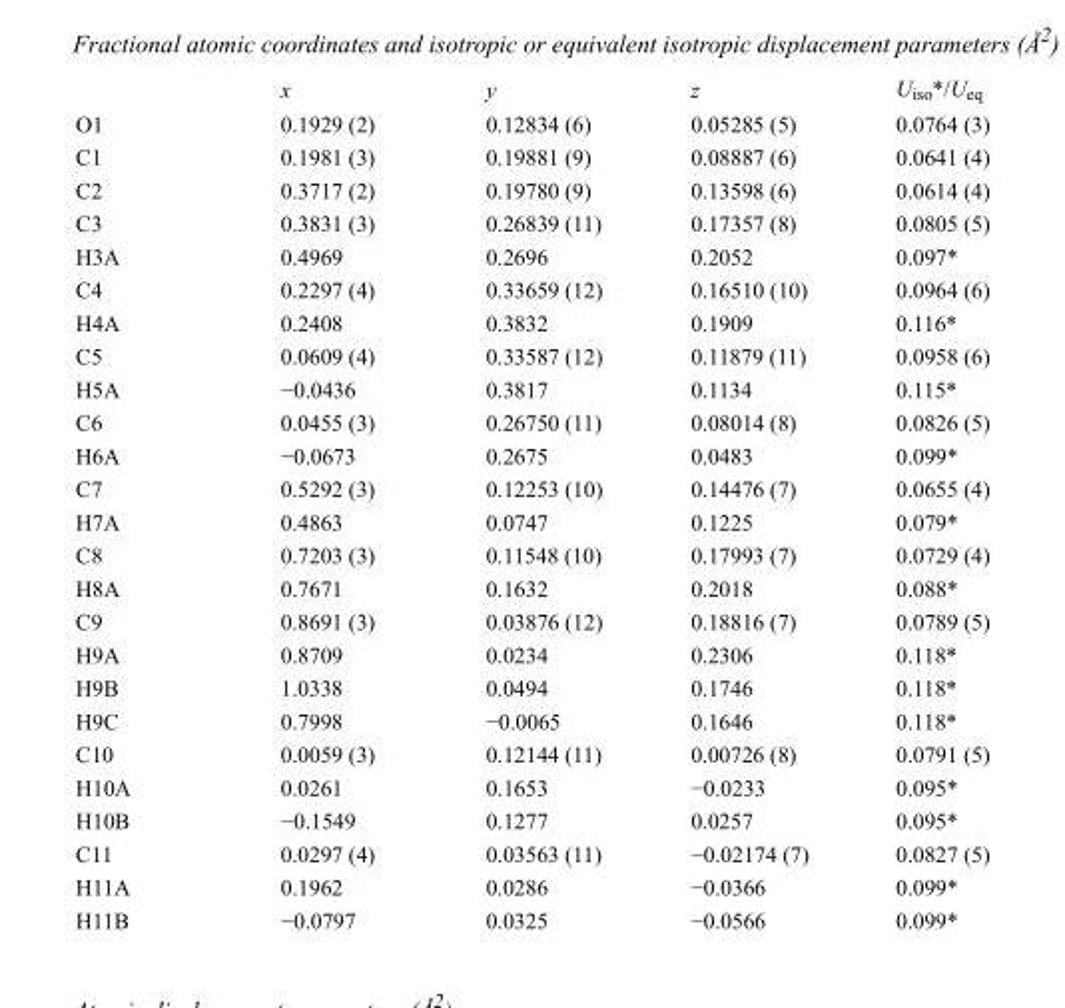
<table><thead><tr><td></td><td>x</td><td>y</td><td>z</td><td>U<sub>iso</sub>*/U<sub>eq</sub></td></tr></thead><tbody><tr><td>O1</td><td>0.1929 (2)</td><td>0.12834 (6)</td><td>0.05285 (5)</td><td>0.0764 (3)</td></tr><tr><td>C1</td><td>0.1981 (3)</td><td>0.19881 (9)</td><td>0.08887 (6)</td><td>0.0641 (4)</td></tr><tr><td>C2</td><td>0.3717 (2)</td><td>0.19780 (9)</td><td>0.13598 (6)</td><td>0.0614 (4)</td></tr><tr><td>C3</td><td>0.3831 (3)</td><td>0.26839 (11)</td><td>0.17357 (8)</td><td>0.0805 (5)</td></tr><tr><td>H3A</td><td>0.4969</td><td>0.2696</td><td>0.2052</td><td>0.097*</td></tr><tr><td>C4</td><td>0.2297 (4)</td><td>0.33659 (12)</td><td>0.16510 (10)</td><td>0.0964 (6)</td></tr><tr><td>H4A</td><td>0.2408</td><td>0.3832</td><td>0.1909</td><td>0.116*</td></tr><tr><td>C5</td><td>0.0609 (4)</td><td>0.33587 (12)</td><td>0.11879 (11)</td><td>0.0958 (6)</td></tr><tr><td>H5A</td><td>−0.0436</td><td>0.3817</td><td>0.1134</td><td>0.115*</td></tr><tr><td>C6</td><td>0.0455 (3)</td><td>0.26750 (11)</td><td>0.08014 (8)</td><td>0.0826 (5)</td></tr><tr><td>H6A</td><td>−0.0673</td><td>0.2675</td><td>0.0483</td><td>0.099*</td></tr><tr><td>C7</td><td>0.5292 (3)</td><td>0.12253 (10)</td><td>0.14476 (7)</td><td>0.0655 (4)</td></tr><tr><td>H7A</td><td>0.4863</td><td>0.0747</td><td>0.1225</td><td>0.079*</td></tr><tr><td>C8</td><td>0.7203 (3)</td><td>0.11548 (10)</td><td>0.17993 (7)</td><td>0.0729 (4)</td></tr><tr><td>H8A</td><td>0.7671</td><td>0.1632</td><td>0.2018</td><td>0.088*</td></tr><tr><td>C9</td><td>0.8691 (3)</td><td>0.03876 (12)</td><td>0.18816 (7)</td><td>0.0789 (5)</td></tr><tr><td>H9A</td><td>0.8709</td><td>0.0234</td><td>0.2306</td><td>0.118*</td></tr><tr><td>H9B</td><td>1.0338</td><td>0.0494</td><td>0.1746</td><td>0.118*</td></tr><tr><td>H9C</td><td>0.7998</td><td>−0.0065</td><td>0.1646</td><td>0.118*</td></tr><tr><td>C10</td><td>0.0059 (3)</td><td>0.12144 (11)</td><td>0.00726 (8)</td><td>0.0791 (5)</td></tr><tr><td>H10A</td><td>0.0261</td><td>0.1653</td><td>−0.0233</td><td>0.095*</td></tr><tr><td>H10B</td><td>−0.1549</td><td>0.1277</td><td>0.0257</td><td>0.095*</td></tr><tr><td>C11</td><td>0.0297 (4)</td><td>0.03563 (11)</td><td>−0.02174 (7)</td><td>0.0827 (5)</td></tr><tr><td>H11A</td><td>0.1962</td><td>0.0286</td><td>−0.0366</td><td>0.099*</td></tr><tr><td>H11B</td><td>−0.0797</td><td>0.0325</td><td>−0.0566</td><td>0.099*</td></tr></tbody></table>